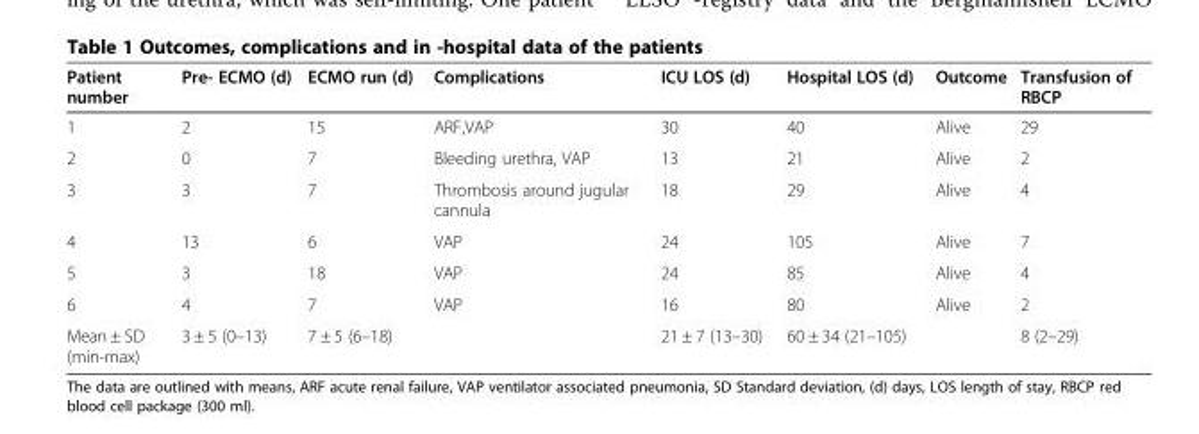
<table><thead><tr><td>Patient number</td><td>Pre- ECMO (d)</td><td>ECMO run (d)</td><td>Complications</td><td>ICU LOS (d)</td><td>Hospital LOS (d)</td><td>Outcome</td><td>Transfusion of RBCP</td></tr></thead><tbody><tr><td>1</td><td>2</td><td>15</td><td>ARF,VAP</td><td>30</td><td>40</td><td>Alive</td><td>29</td></tr><tr><td>2</td><td>0</td><td>7</td><td>Bleeding urethra, VAP</td><td>13</td><td>21</td><td>Alive</td><td>2</td></tr><tr><td>3</td><td>3</td><td>7</td><td>Thrombosis around jugular cannula</td><td>18</td><td>29</td><td>Alive</td><td>4</td></tr><tr><td>4</td><td>13</td><td>6</td><td>VAP</td><td>24</td><td>105</td><td>Alive</td><td>7</td></tr><tr><td>5</td><td>3</td><td>18</td><td>VAP</td><td>24</td><td>85</td><td>Alive</td><td>4</td></tr><tr><td>6</td><td>4</td><td>7</td><td>VAP</td><td>16</td><td>80</td><td>Alive</td><td>2</td></tr><tr><td>Mean ± SD (min-max)</td><td>3 ± 5 (0–13)</td><td>7 ± 5 (6–18)</td><td></td><td>21 ± 7 (13–30)</td><td>60 ± 34 (21–105)</td><td></td><td>8 (2–29)</td></tr></tbody></table>